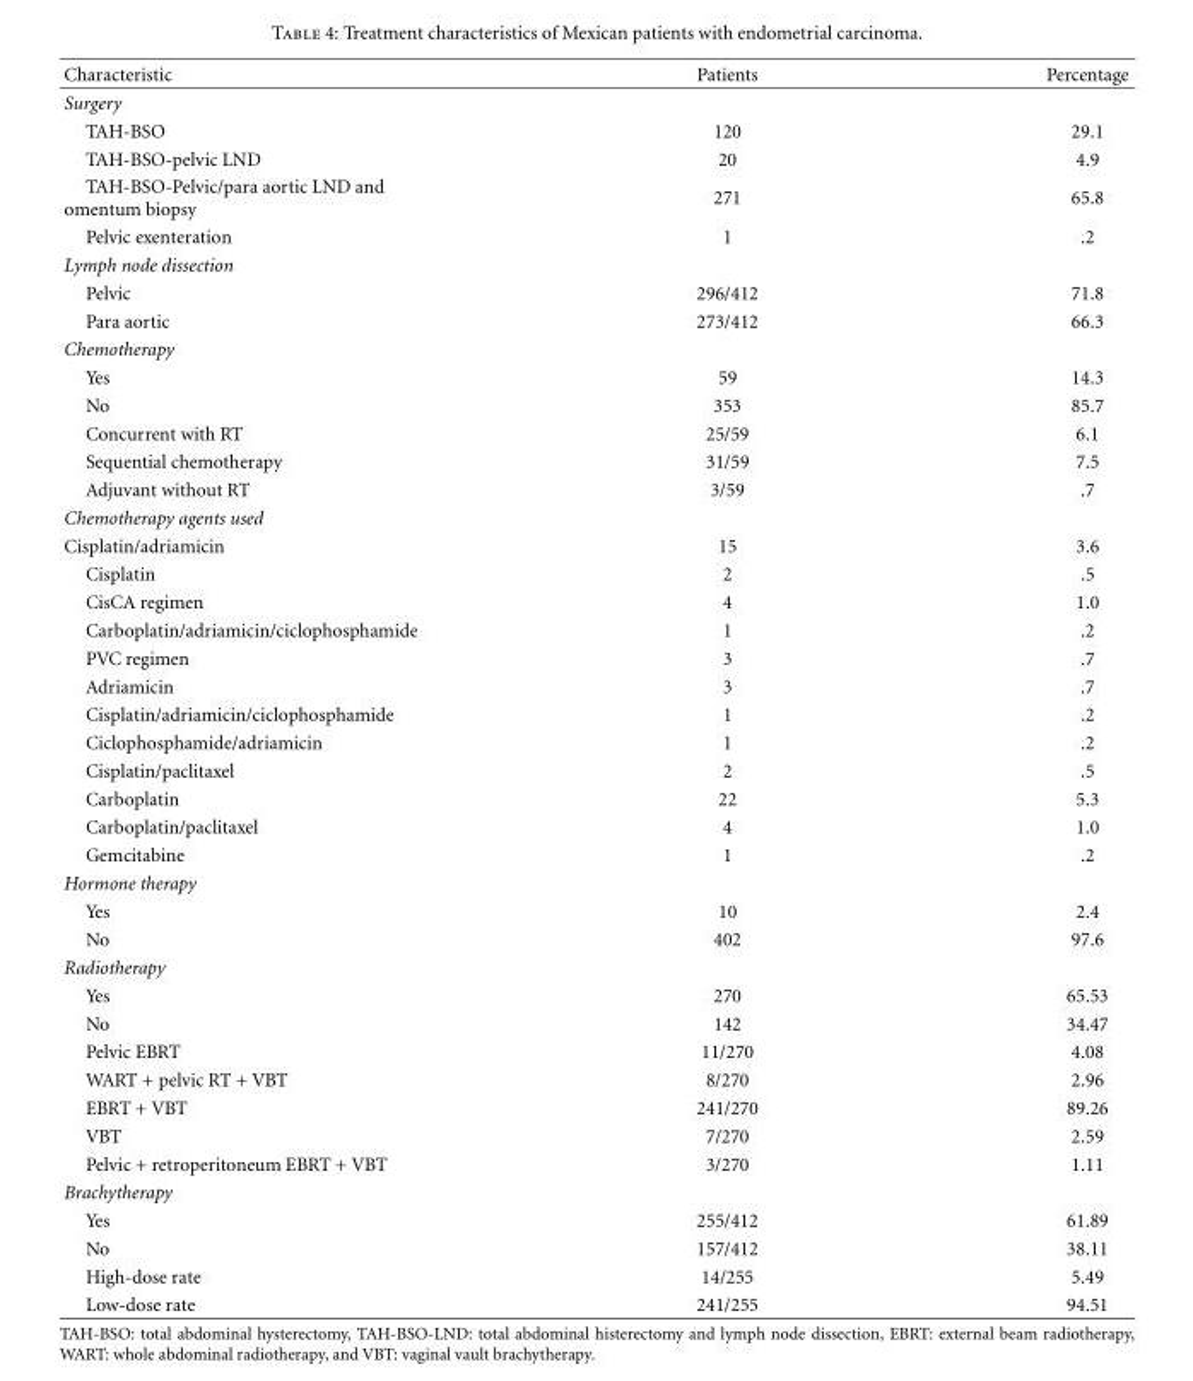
<table><thead><tr><td>Characteristic</td><td>Patients</td><td>Percentage</td></tr></thead><tbody><tr><td colspan="3">Surgery</td></tr><tr><td>TAH-BSO</td><td>120</td><td>29.1</td></tr><tr><td>TAH-BSO-pelvic LND</td><td>20</td><td>4.9</td></tr><tr><td>TAH-BSO-Pelvic/para aortic LND and omentum biopsy</td><td>271</td><td>65.8</td></tr><tr><td>Pelvic exenteration</td><td>1</td><td>.2</td></tr><tr><td colspan="3">Lymph node dissection</td></tr><tr><td>Pelvic</td><td>296/412</td><td>71.8</td></tr><tr><td>Para aortic</td><td>273/412</td><td>66.3</td></tr><tr><td colspan="3">Chemotherapy</td></tr><tr><td>Yes</td><td>59</td><td>14.3</td></tr><tr><td>No</td><td>353</td><td>85.7</td></tr><tr><td>Concurrent with RT</td><td>25/59</td><td>6.1</td></tr><tr><td>Sequential chemotherapy</td><td>31/59</td><td>7.5</td></tr><tr><td>Adjuvant without RT</td><td>3/59</td><td>.7</td></tr><tr><td colspan="3">Chemotherapy agents used</td></tr><tr><td>Cisplatin/adriamicin</td><td>15</td><td>3.6</td></tr><tr><td>Cisplatin</td><td>2</td><td>.5</td></tr><tr><td>CisCA regimen</td><td>4</td><td>1.0</td></tr><tr><td>Carboplatin/adriamicin/ciclophosphamide</td><td>1</td><td>.2</td></tr><tr><td>PVC regimen</td><td>3</td><td>.7</td></tr><tr><td>Adriamicin</td><td>3</td><td>.7</td></tr><tr><td>Cisplatin/adriamicin/ciclophosphamide</td><td>1</td><td>.2</td></tr><tr><td>Ciclophosphamide/adriamicin</td><td>1</td><td>.2</td></tr><tr><td>Cisplatin/paclitaxel</td><td>2</td><td>.5</td></tr><tr><td>Carboplatin</td><td>22</td><td>5.3</td></tr><tr><td>Carboplatin/paclitaxel</td><td>4</td><td>1.0</td></tr><tr><td>Gemcitabine</td><td>1</td><td>.2</td></tr><tr><td colspan="3">Hormone therapy</td></tr><tr><td>Yes</td><td>10</td><td>2.4</td></tr><tr><td>No</td><td>402</td><td>97.6</td></tr><tr><td colspan="3">Radiotherapy</td></tr><tr><td>Yes</td><td>270</td><td>65.53</td></tr><tr><td>No</td><td>142</td><td>34.47</td></tr><tr><td>Pelvic EBRT</td><td>11/270</td><td>4.08</td></tr><tr><td>WART + pelvic RT + VBT</td><td>8/270</td><td>2.96</td></tr><tr><td>EBRT + VBT</td><td>241/270</td><td>89.26</td></tr><tr><td>VBT</td><td>7/270</td><td>2.59</td></tr><tr><td>Pelvic + retroperitoneum EBRT + VBT</td><td>3/270</td><td>1.11</td></tr><tr><td colspan="3">Brachytherapy</td></tr><tr><td>Yes</td><td>255/412</td><td>61.89</td></tr><tr><td>No</td><td>157/412</td><td>38.11</td></tr><tr><td>High-dose rate</td><td>14/255</td><td>5.49</td></tr><tr><td>Low-dose rate</td><td>241/255</td><td>94.51</td></tr></tbody></table>